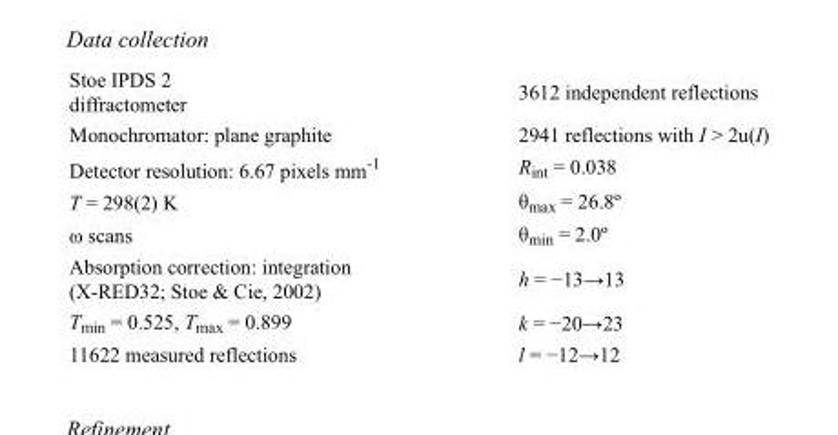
<table><tbody><tr><td>Stoe IPDS 2 diffractometer</td><td>3612 independent reflections</td></tr><tr><td>Monochromator: plane graphite</td><td>2941 reflections with I &gt; 2u(I)</td></tr><tr><td>Detector resolution: 6.67 pixels mm<sup>-1</sup></td><td>R<sub>int</sub> = 0.038</td></tr><tr><td>T = 298(2) K</td><td>θ<sub>max</sub> = 26.8º</td></tr><tr><td>ω scans</td><td>θ<sub>min</sub> = 2.0º</td></tr><tr><td>Absorption correction: integration (X-RED32; Stoe &amp; Cie, 2002)</td><td>h = −13→13</td></tr><tr><td>T<sub>min</sub> = 0.525, T<sub>max</sub> = 0.899</td><td>k = −20→23</td></tr><tr><td>11622 measured reflections</td><td>l = −12→12</td></tr></tbody></table>